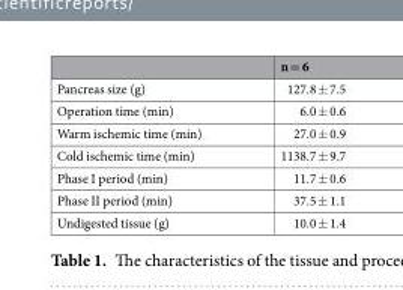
<table><thead><tr><td></td><td>n = 6</td></tr></thead><tbody><tr><td>Pancreas size (g)</td><td>127.8 ± 7.5</td></tr><tr><td>Operation time (min)</td><td>6.0 ± 0.6</td></tr><tr><td>Warm ischemic time (min)</td><td>27.0 ± 0.9</td></tr><tr><td>Cold ischemic time (min)</td><td>1138.7 ± 9.7</td></tr><tr><td>Phase I period (min)</td><td>11.7 ± 0.6</td></tr><tr><td>Phase II period (min)</td><td>37.5 ± 1.1</td></tr><tr><td>Undigested tissue (g)</td><td>10.0 ± 1.4</td></tr></tbody></table>